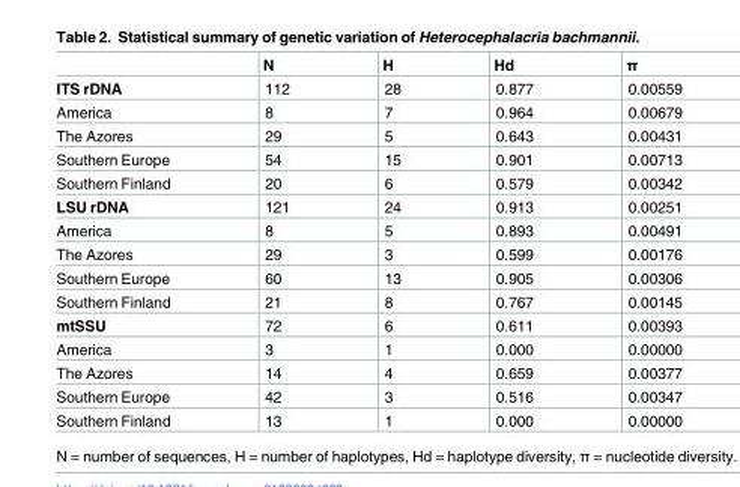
<table><thead><tr><td></td><td>N</td><td>H</td><td>Hd</td><td>π</td></tr></thead><tbody><tr><td>ITS rDNA</td><td>112</td><td>28</td><td>0.877</td><td>0.00559</td></tr><tr><td>America</td><td>8</td><td>7</td><td>0.964</td><td>0.00679</td></tr><tr><td>The Azores</td><td>29</td><td>5</td><td>0.643</td><td>0.00431</td></tr><tr><td>Southern Europe</td><td>54</td><td>15</td><td>0.901</td><td>0.00713</td></tr><tr><td>Southern Finland</td><td>20</td><td>6</td><td>0.579</td><td>0.00342</td></tr><tr><td>LSU rDNA</td><td>121</td><td>24</td><td>0.913</td><td>0.00251</td></tr><tr><td>America</td><td>8</td><td>5</td><td>0.893</td><td>0.00491</td></tr><tr><td>The Azores</td><td>29</td><td>3</td><td>0.599</td><td>0.00176</td></tr><tr><td>Southern Europe</td><td>60</td><td>13</td><td>0.905</td><td>0.00306</td></tr><tr><td>Southern Finland</td><td>21</td><td>8</td><td>0.767</td><td>0.00145</td></tr><tr><td>mtSSU</td><td>72</td><td>6</td><td>0.611</td><td>0.00393</td></tr><tr><td>America</td><td>3</td><td>1</td><td>0.000</td><td>0.00000</td></tr><tr><td>The Azores</td><td>14</td><td>4</td><td>0.659</td><td>0.00377</td></tr><tr><td>Southern Europe</td><td>42</td><td>3</td><td>0.516</td><td>0.00347</td></tr><tr><td>Southern Finland</td><td>13</td><td>1</td><td>0.000</td><td>0.00000</td></tr></tbody></table>